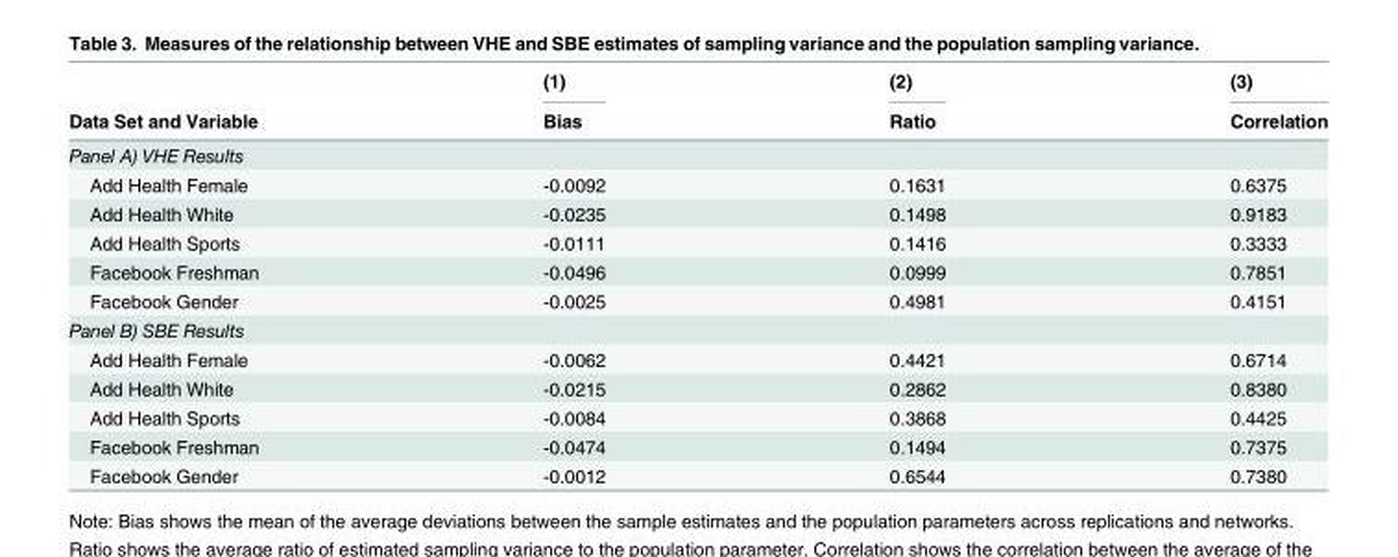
<table><thead><tr><td rowspan="2">Data Set and Variable</td><td rowspan="2">(1) Bias</td><td rowspan="2">(2) Ratio</td><td rowspan="2">(3) Correlation</td></tr><tr></tr></thead><tbody><tr><td colspan="4">Panel A) VHE Results</td></tr><tr><td>Add Health Female</td><td>-0.0092</td><td>0.1631</td><td>0.6375</td></tr><tr><td>Add Health White</td><td>-0.0235</td><td>0.1498</td><td>0.9183</td></tr><tr><td>Add Health Sports</td><td>-0.0111</td><td>0.1416</td><td>0.3333</td></tr><tr><td>Facebook Freshman</td><td>-0.0496</td><td>0.0999</td><td>0.7851</td></tr><tr><td>Facebook Gender</td><td>-0.0025</td><td>0.4981</td><td>0.4151</td></tr><tr><td colspan="4">Panel B) SBE Results</td></tr><tr><td>Add Health Female</td><td>-0.0062</td><td>0.4421</td><td>0.6714</td></tr><tr><td>Add Health White</td><td>-0.0215</td><td>0.2862</td><td>0.8380</td></tr><tr><td>Add Health Sports</td><td>-0.0084</td><td>0.3868</td><td>0.4425</td></tr><tr><td>Facebook Freshman</td><td>-0.0474</td><td>0.1494</td><td>0.7375</td></tr><tr><td>Facebook Gender</td><td>-0.0012</td><td>0.6544</td><td>0.7380</td></tr></tbody></table>